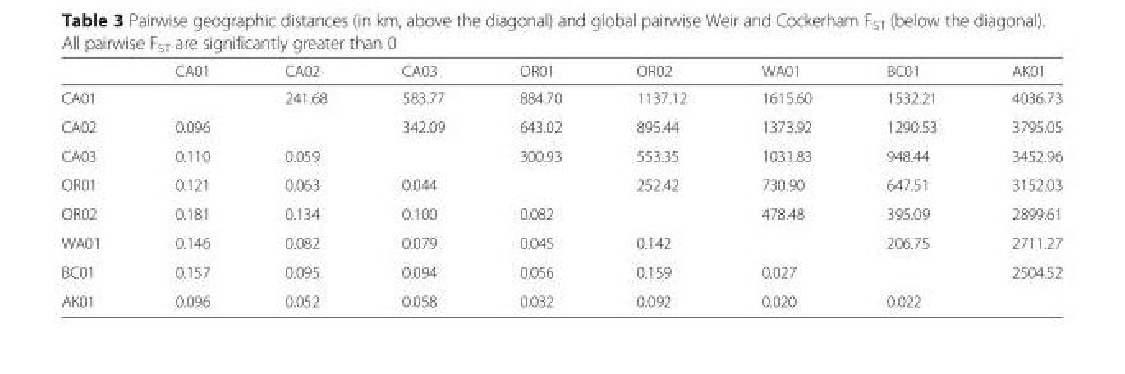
<table><thead><tr><td></td><td>CA01</td><td>CA02</td><td>CA03</td><td>OR01</td><td>OR02</td><td>WA01</td><td>BC01</td><td>AK01</td></tr></thead><tbody><tr><td>CA01</td><td></td><td>241.68</td><td>583.77</td><td>884.70</td><td>1137.12</td><td>1615.60</td><td>1532.21</td><td>4036.73</td></tr><tr><td>CA02</td><td>0.096</td><td></td><td>342.09</td><td>643.02</td><td>895.44</td><td>1373.92</td><td>1290.53</td><td>3795.05</td></tr><tr><td>CA03</td><td>0.110</td><td>0.059</td><td></td><td>300.93</td><td>553.35</td><td>1031.83</td><td>948.44</td><td>3452.96</td></tr><tr><td>OR01</td><td>0.121</td><td>0.063</td><td>0.044</td><td></td><td>252.42</td><td>730.90</td><td>647.51</td><td>3152.03</td></tr><tr><td>OR02</td><td>0.181</td><td>0.134</td><td>0.100</td><td>0.082</td><td></td><td>478.48</td><td>395.09</td><td>2899.61</td></tr><tr><td>WA01</td><td>0.146</td><td>0.082</td><td>0.079</td><td>0.045</td><td>0.142</td><td></td><td>206.75</td><td>2711.27</td></tr><tr><td>BC01</td><td>0.157</td><td>0.095</td><td>0.094</td><td>0.056</td><td>0.159</td><td>0.027</td><td></td><td>2504.52</td></tr><tr><td>AK01</td><td>0.096</td><td>0.052</td><td>0.058</td><td>0.032</td><td>0.092</td><td>0.020</td><td>0.022</td><td></td></tr></tbody></table>